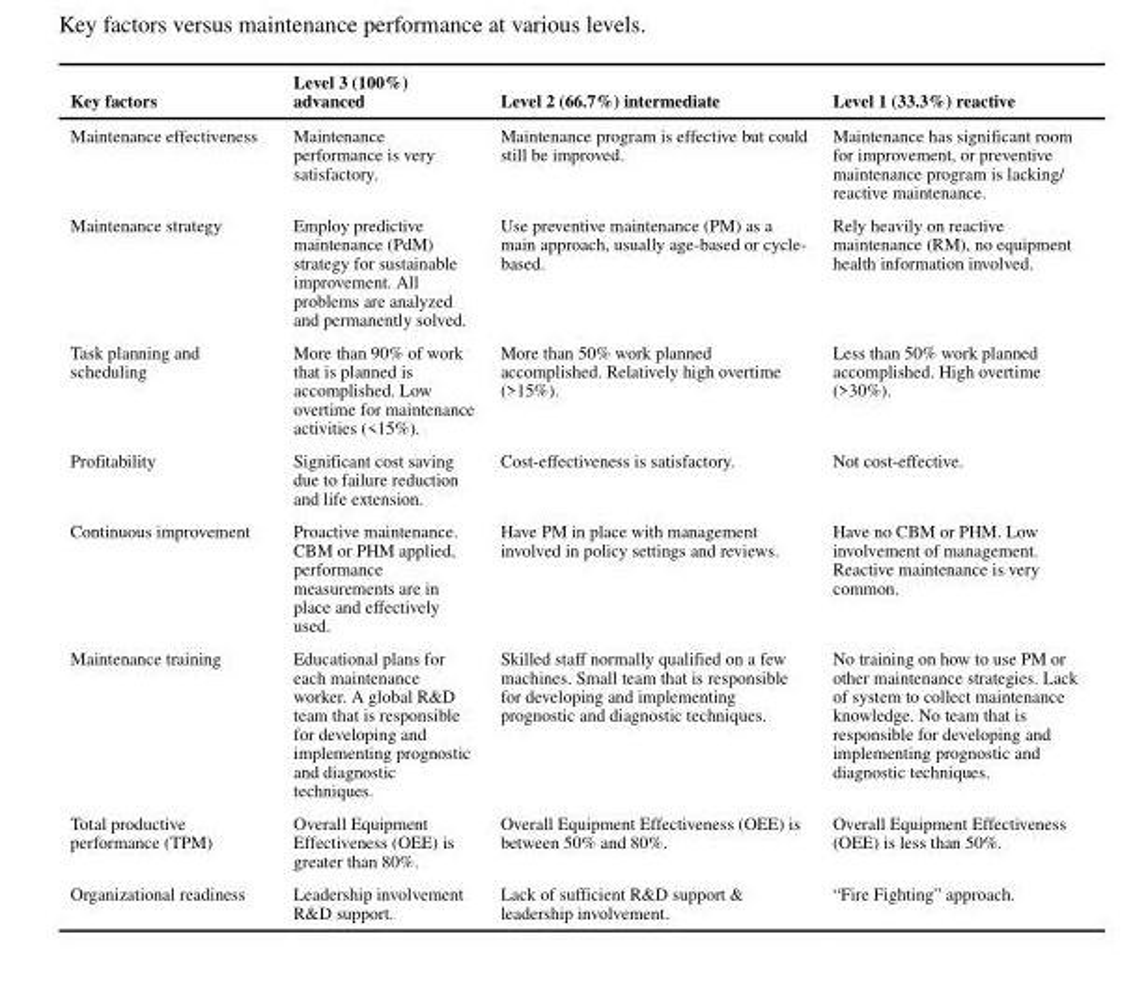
<table><thead><tr><td>Key factors</td><td>Level 3 (100%) advanced</td><td>Level 2 (66.7%) intermediate</td><td>Level 1 (33.3%) reactive</td></tr></thead><tbody><tr><td>Maintenance effectiveness</td><td>Maintenance performance is very satisfactory.</td><td>Maintenance program is effective but could still be improved.</td><td>Maintenance has significant room for improvement, or preventive maintenance program is lacking/ reactive maintenance.</td></tr><tr><td>Maintenance strategy</td><td>Employ predictive maintenance (PdM) strategy for sustainable improvement. All problems are analyzed and permanently solved.</td><td>Use preventive maintenance (PM) as a main approach, usually age-based or cycle- based.</td><td>Rely heavily on reactive maintenance (RM), no equipment health information involved.</td></tr><tr><td>Task planning and scheduling</td><td>More than 90% of work that is planned is accomplished. Low overtime for maintenance activities (&lt;15%).</td><td>More than 50% work planned accomplished. Relatively high overtime (&gt;15%).</td><td>Less than 50% work planned accomplished. High overtime (&gt;30%).</td></tr><tr><td>Profitability</td><td>Significant cost saving due to failure reduction and life extension.</td><td>Cost-effectiveness is satisfactory.</td><td>Not cost-effective.</td></tr><tr><td>Continuous improvement</td><td>Proactive maintenance. CBM or PHM applied, performance measurements are in place and effectively used.</td><td>Have PM in place with management involved in policy settings and reviews.</td><td>Have no CBM or PHM. Low involvement of management. Reactive maintenance is very common.</td></tr><tr><td>Maintenance training</td><td>Educational plans for each maintenance worker. A global R&amp;D team that is responsible for developing and implementing prognostic and diagnostic techniques.</td><td>Skilled staff normally qualified on a few machines. Small team that is responsible for developing and implementing prognostic and diagnostic techniques.</td><td>No training on how to use PM or other maintenance strategies. Lack of system to collect maintenance knowledge. No team that is responsible for developing and implementing prognostic and diagnostic techniques.</td></tr><tr><td>Total productive performance (TPM)</td><td>Overall Equipment Effectiveness (OEE) is greater than 80%.</td><td>Overall Equipment Effectiveness (OEE) is between 50% and 80%.</td><td>Overall Equipment Effectiveness (OEE) is less than 50%.</td></tr><tr><td>Organizational readiness</td><td>Leadership involvement R&amp;D support.</td><td>Lack of sufficient R&amp;D support &amp; leadership involvement.</td><td>“Fire Fighting” approach.</td></tr></tbody></table>